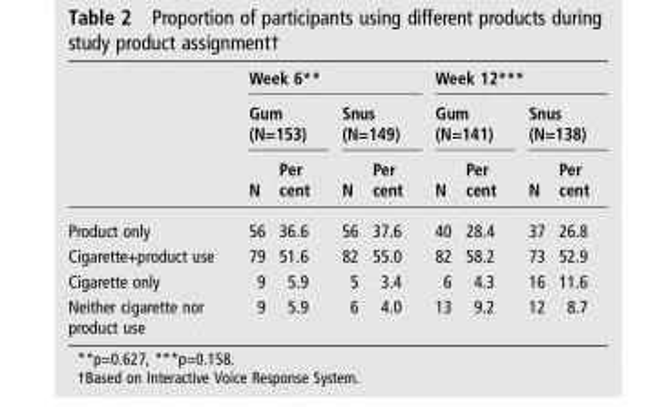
<table><thead><tr><td rowspan="3"></td><td colspan="4">Week 6**</td><td colspan="4">Week 12***</td></tr><tr><td colspan="2">Gum (N=153)</td><td colspan="2">Snus (N=149)</td><td colspan="2">Gum (N=141)</td><td colspan="2">Snus (N=138)</td></tr><tr><td>N</td><td>Per cent</td><td>N</td><td>Per cent</td><td>N</td><td>Per cent</td><td>N</td><td>Per cent</td></tr></thead><tbody><tr><td>Product only</td><td>56</td><td>36.6</td><td>56</td><td>37.6</td><td>40</td><td>28.4</td><td>37</td><td>26.8</td></tr><tr><td>Cigarette+product use</td><td>79</td><td>51.6</td><td>82</td><td>55.0</td><td>82</td><td>58.2</td><td>73</td><td>52.9</td></tr><tr><td>Cigarette only</td><td>9</td><td>5.9</td><td>5</td><td>3.4</td><td>6</td><td>4.3</td><td>16</td><td>11.6</td></tr><tr><td>Neither cigarette nor product use</td><td>9</td><td>5.9</td><td>6</td><td>4.0</td><td>13</td><td>9.2</td><td>12</td><td>8.7</td></tr></tbody></table>